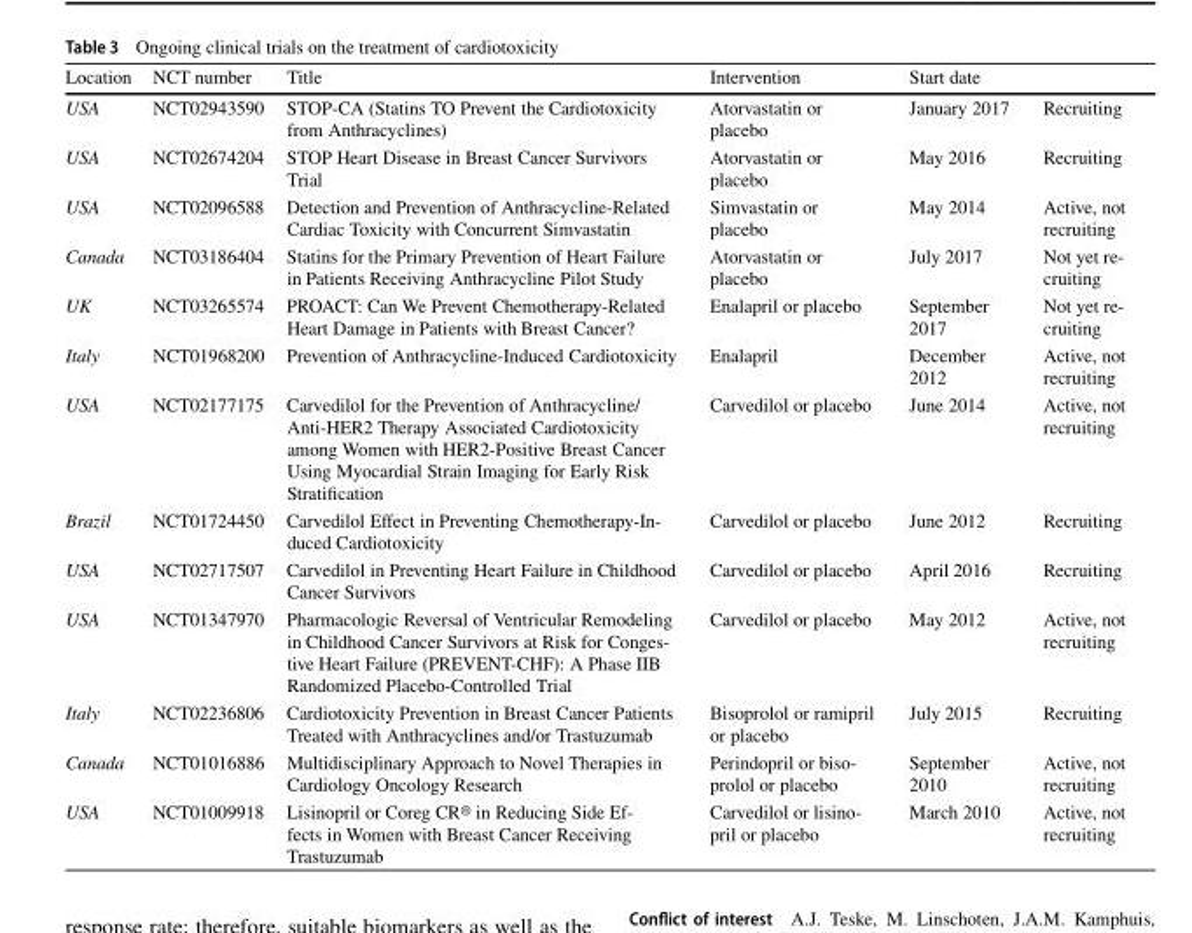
<table><thead><tr><td>Location</td><td>NCT number</td><td>Title</td><td>Intervention</td><td>Start date</td><td></td></tr></thead><tbody><tr><td>USA</td><td>NCT02943590</td><td>STOP-CA (Statins TO Prevent the Cardiotoxicity from Anthracyclines)</td><td>Atorvastatin or placebo</td><td>January 2017</td><td>Recruiting</td></tr><tr><td>USA</td><td>NCT02674204</td><td>STOP Heart Disease in Breast Cancer Survivors Trial</td><td>Atorvastatin or placebo</td><td>May 2016</td><td>Recruiting</td></tr><tr><td>USA</td><td>NCT02096588</td><td>Detection and Prevention of Anthracycline-Related Cardiac Toxicity with Concurrent Simvastatin</td><td>Simvastatin or placebo</td><td>May 2014</td><td>Active, not recruiting</td></tr><tr><td>Canada</td><td>NCT03186404</td><td>Statins for the Primary Prevention of Heart Failure in Patients Receiving Anthracycline Pilot Study</td><td>Atorvastatin or placebo</td><td>July 2017</td><td>Not yet re- cruiting</td></tr><tr><td>UK</td><td>NCT03265574</td><td>PROACT: Can We Prevent Chemotherapy-Related Heart Damage in Patients with Breast Cancer?</td><td>Enalapril or placebo</td><td>September 2017</td><td>Not yet re- cruiting</td></tr><tr><td>Italy</td><td>NCT01968200</td><td>Prevention of Anthracycline-Induced Cardiotoxicity</td><td>Enalapril</td><td>December 2012</td><td>Active, not recruiting</td></tr><tr><td>USA</td><td>NCT02177175</td><td>Carvedilol for the Prevention of Anthracycline/ Anti-HER2 Therapy Associated Cardiotoxicity among Women with HER2-Positive Breast Cancer Using Myocardial Strain Imaging for Early Risk Stratification</td><td>Carvedilol or placebo</td><td>June 2014</td><td>Active, not recruiting</td></tr><tr><td>Brazil</td><td>NCT01724450</td><td>Carvedilol Effect in Preventing Chemotherapy-In- duced Cardiotoxicity</td><td>Carvedilol or placebo</td><td>June 2012</td><td>Recruiting</td></tr><tr><td>USA</td><td>NCT02717507</td><td>Carvedilol in Preventing Heart Failure in Childhood Cancer Survivors</td><td>Carvedilol or placebo</td><td>April 2016</td><td>Recruiting</td></tr><tr><td>USA</td><td>NCT01347970</td><td>Pharmacologic Reversal of Ventricular Remodeling in Childhood Cancer Survivors at Risk for Conges- tive Heart Failure (PREVENT-CHF): A Phase IIB Randomized Placebo-Controlled Trial</td><td>Carvedilol or placebo</td><td>May 2012</td><td>Active, not recruiting</td></tr><tr><td>Italy</td><td>NCT02236806</td><td>Cardiotoxicity Prevention in Breast Cancer Patients Treated with Anthracyclines and/or Trastuzumab</td><td>Bisoprolol or ramipril or placebo</td><td>July 2015</td><td>Recruiting</td></tr><tr><td>Canada</td><td>NCT01016886</td><td>Multidisciplinary Approach to Novel Therapies in Cardiology Oncology Research</td><td>Perindopril or biso- prolol or placebo</td><td>September 2010</td><td>Active, not recruiting</td></tr><tr><td>USA</td><td>NCT01009918</td><td>Lisinopril or Coreg CR® in Reducing Side Ef- fects in Women with Breast Cancer Receiving Trastuzumab</td><td>Carvedilol or lisino- pril or placebo</td><td>March 2010</td><td>Active, not recruiting</td></tr></tbody></table>